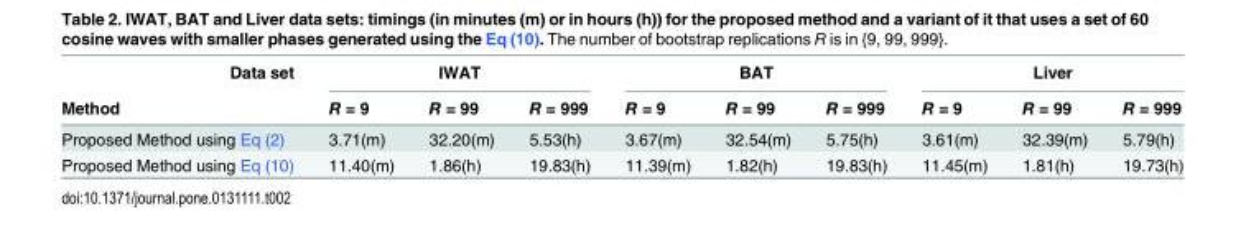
<table><thead><tr><td rowspan="2">Data set Method</td><td colspan="3">IWAT</td><td colspan="3">BAT</td><td colspan="3">Liver</td></tr><tr><td>R = 9</td><td>R = 99</td><td>R = 999</td><td>R = 9</td><td>R = 99</td><td>R = 999</td><td>R = 9</td><td>R = 99</td><td>R = 999</td></tr></thead><tbody><tr><td>Proposed Method using Eq (2)</td><td>3.71(m)</td><td>32.20(m)</td><td>5.53(h)</td><td>3.67(m)</td><td>32.54(m)</td><td>5.75(h)</td><td>3.61(m)</td><td>32.39(m)</td><td>5.79(h)</td></tr><tr><td>Proposed Method using Eq (10)</td><td>11.40(m)</td><td>1.86(h)</td><td>19.83(h)</td><td>11.39(m)</td><td>1.82(h)</td><td>19.83(h)</td><td>11.45(m)</td><td>1.81(h)</td><td>19.73(h)</td></tr></tbody></table>